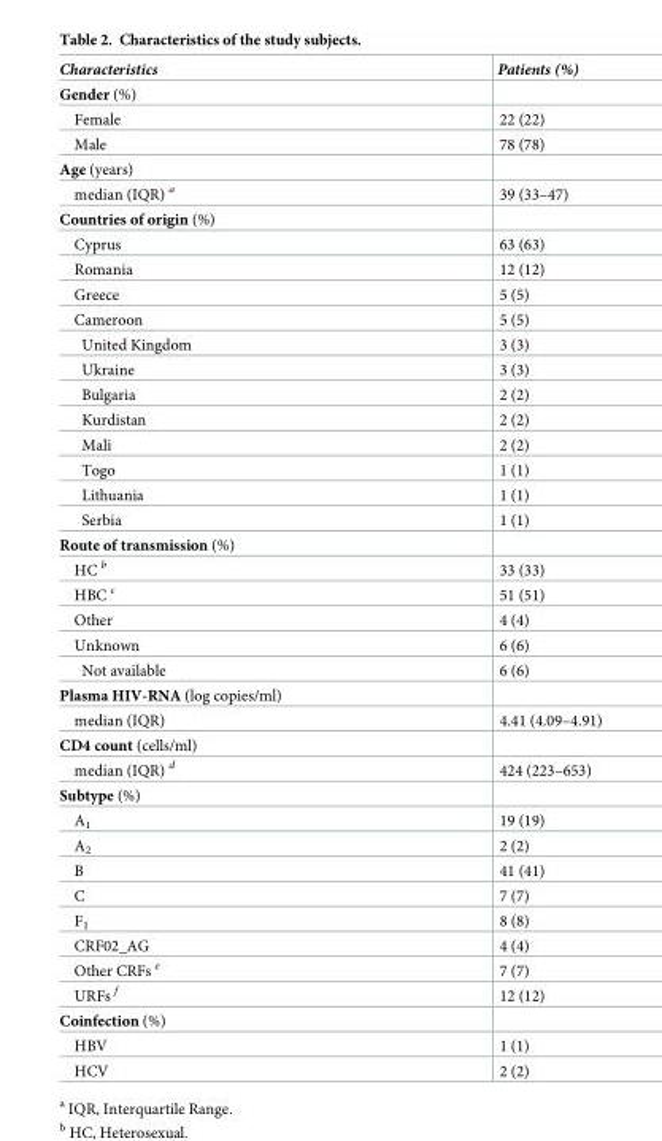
<table><thead><tr><td>Characteristics</td><td>Patients (%)</td></tr></thead><tbody><tr><td colspan="2">Gender (%)</td></tr><tr><td>Female</td><td>22 (22)</td></tr><tr><td>Male</td><td>78 (78)</td></tr><tr><td colspan="2">Age (years)</td></tr><tr><td>median (IQR) <sup>a</sup></td><td>39 (33–47)</td></tr><tr><td colspan="2">Countries of origin (%)</td></tr><tr><td>Cyprus</td><td>63 (63)</td></tr><tr><td>Romania</td><td>12 (12)</td></tr><tr><td>Greece</td><td>5 (5)</td></tr><tr><td>Cameroon</td><td>5 (5)</td></tr><tr><td>United Kingdom</td><td>3 (3)</td></tr><tr><td>Ukraine</td><td>3 (3)</td></tr><tr><td>Bulgaria</td><td>2 (2)</td></tr><tr><td>Kurdistan</td><td>2 (2)</td></tr><tr><td>Mali</td><td>2 (2)</td></tr><tr><td>Togo</td><td>1 (1)</td></tr><tr><td>Lithuania</td><td>1 (1)</td></tr><tr><td>Serbia</td><td>1 (1)</td></tr><tr><td colspan="2">Route of transmission (%)</td></tr><tr><td>HC <sup>b</sup></td><td>33 (33)</td></tr><tr><td>HBC <sup>c</sup></td><td>51 (51)</td></tr><tr><td>Other</td><td>4 (4)</td></tr><tr><td>Unknown</td><td>6 (6)</td></tr><tr><td>Not available</td><td>6 (6)</td></tr><tr><td colspan="2">Plasma HIV-RNA (log copies/ml)</td></tr><tr><td>median (IQR)</td><td>4.41 (4.09–4.91)</td></tr><tr><td colspan="2">CD4 count (cells/ml)</td></tr><tr><td>median (IQR) <sup>d</sup></td><td>424 (223–653)</td></tr><tr><td colspan="2">Subtype (%)</td></tr><tr><td>A<sub>1</sub></td><td>19 (19)</td></tr><tr><td>A<sub>2</sub></td><td>2 (2)</td></tr><tr><td>B</td><td>41 (41)</td></tr><tr><td>C</td><td>7 (7)</td></tr><tr><td>F<sub>1</sub></td><td>8 (8)</td></tr><tr><td>CRF02_AG</td><td>4 (4)</td></tr><tr><td>Other CRFs <sup>e</sup></td><td>7 (7)</td></tr><tr><td>URFs <sup>f</sup></td><td>12 (12)</td></tr><tr><td colspan="2">Coinfection (%)</td></tr><tr><td>HBV</td><td>1 (1)</td></tr><tr><td>HCV</td><td>2 (2)</td></tr></tbody></table>